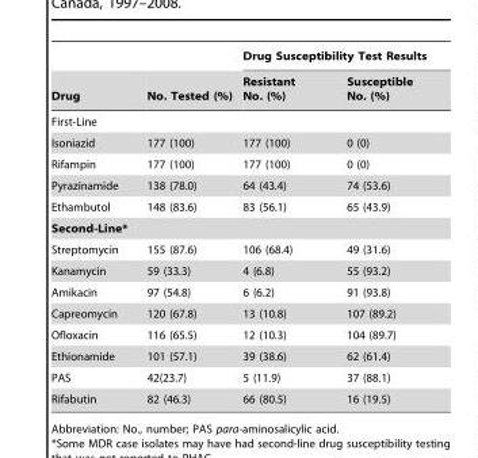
<table><thead><tr><td rowspan="2">Drug</td><td rowspan="2">No. Tested (%)</td><td colspan="2">Drug Susceptibility Test Results</td></tr><tr><td>Resistant No. (%)</td><td>Susceptible No. (%)</td></tr></thead><tbody><tr><td colspan="4">First-Line</td></tr><tr><td>Isoniazid</td><td>177 (100)</td><td>177 (100)</td><td>0 (0)</td></tr><tr><td>Rifampin</td><td>177 (100)</td><td>177 (100)</td><td>0 (0)</td></tr><tr><td>Pyrazinamide</td><td>138 (78.0)</td><td>64 (43.4)</td><td>74 (53.6)</td></tr><tr><td>Ethambutol</td><td>148 (83.6)</td><td>83 (56.1)</td><td>65 (43.9)</td></tr><tr><td colspan="4">Second-Line*</td></tr><tr><td>Streptomycin</td><td>155 (87.6)</td><td>106 (68.4)</td><td>49 (31.6)</td></tr><tr><td>Kanamycin</td><td>59 (33.3)</td><td>4 (6.8)</td><td>55 (93.2)</td></tr><tr><td>Amikacin</td><td>97 (54.8)</td><td>6 (6.2)</td><td>91 (93.8)</td></tr><tr><td>Capreomycin</td><td>120 (67.8)</td><td>13 (10.8)</td><td>107 (89.2)</td></tr><tr><td>Ofloxacin</td><td>116 (65.5)</td><td>12 (10.3)</td><td>104 (89.7)</td></tr><tr><td>Ethionamide</td><td>101 (57.1)</td><td>39 (38.6)</td><td>62 (61.4)</td></tr><tr><td>PAS</td><td>42(23.7)</td><td>5 (11.9)</td><td>37 (88.1)</td></tr><tr><td>Rifabutin</td><td>82 (46.3)</td><td>66 (80.5)</td><td>16 (19.5)</td></tr></tbody></table>